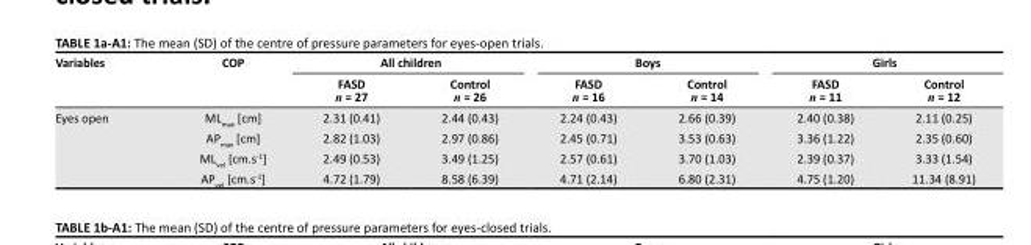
<table><thead><tr><td rowspan="2">Variables</td><td rowspan="2">COP</td><td colspan="2">All children</td><td colspan="2">Boys</td><td colspan="2">Girls</td></tr><tr><td>FASD n = 27</td><td>Control n = 26</td><td>FASD n = 16</td><td>Control n = 14</td><td>FASD n = 11</td><td>Control n = 12</td></tr></thead><tbody><tr><td rowspan="4">Eyes open</td><td>ML<sub>max</sub> [cm]</td><td>2.31 (0.41)</td><td>2.44 (0.43)</td><td>2.24 (0.43)</td><td>2.66 (0.39)</td><td>2.40 (0.38)</td><td>2.11 (0.25)</td></tr><tr><td>AP<sub>max</sub> [cm]</td><td>2.82 (1.03)</td><td>2.97 (0.86)</td><td>2.45 (0.71)</td><td>3.53 (0.63)</td><td>3.36 (1.22)</td><td>2.35 (0.60)</td></tr><tr><td>ML<sub>vel</sub> [cm.s<sup>-1</sup>]</td><td>2.49 (0.53)</td><td>3.49 (1.25)</td><td>2.57 (0.61)</td><td>3.70 (1.03)</td><td>2.39 (0.37)</td><td>3.33 (1.54)</td></tr><tr><td>AP<sub>vel</sub> [cm.s<sup>-1</sup>]</td><td>4.72 (1.79)</td><td>8.58 (6.39)</td><td>4.71 (2.14)</td><td>6.80 (2.31)</td><td>4.75 (1.20)</td><td>11.34 (8.91)</td></tr></tbody></table>